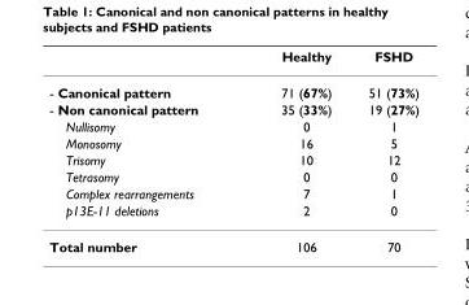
<table><thead><tr><td></td><td>Healthy</td><td>FSHD</td></tr></thead><tbody><tr><td>- Canonical pattern</td><td>71 (67%)</td><td>51 (73%)</td></tr><tr><td>- Non canonical pattern</td><td>35 (33%)</td><td>19 (27%)</td></tr><tr><td>Nullisomy</td><td>0</td><td>1</td></tr><tr><td>Monosomy</td><td>16</td><td>5</td></tr><tr><td>Trisomy</td><td>10</td><td>12</td></tr><tr><td>Tetrasomy</td><td>0</td><td>0</td></tr><tr><td>Complex rearrangements</td><td>7</td><td>1</td></tr><tr><td>p13E-11 deletions</td><td>2</td><td>0</td></tr><tr><td>Total number</td><td>106</td><td>70</td></tr></tbody></table>